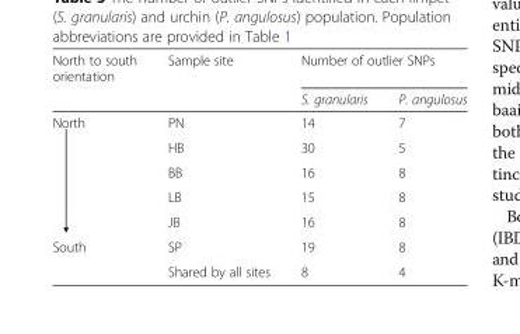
<table><thead><tr><td rowspan="2">North to south orientation</td><td rowspan="2">Sample site</td><td colspan="2">Number of outlier SNPs</td></tr><tr><td>S. granularis</td><td>P. angulosus</td></tr></thead><tbody><tr><td rowspan="5">North</td><td>PN</td><td>14</td><td>7</td></tr><tr><td>HB</td><td>30</td><td>5</td></tr><tr><td>BB</td><td>16</td><td>8</td></tr><tr><td>LB</td><td>15</td><td>8</td></tr><tr><td>JB</td><td>16</td><td>8</td></tr><tr><td rowspan="2">South</td><td>SP</td><td>19</td><td>8</td></tr><tr><td>Shared by all sites</td><td>8</td><td>4</td></tr></tbody></table>